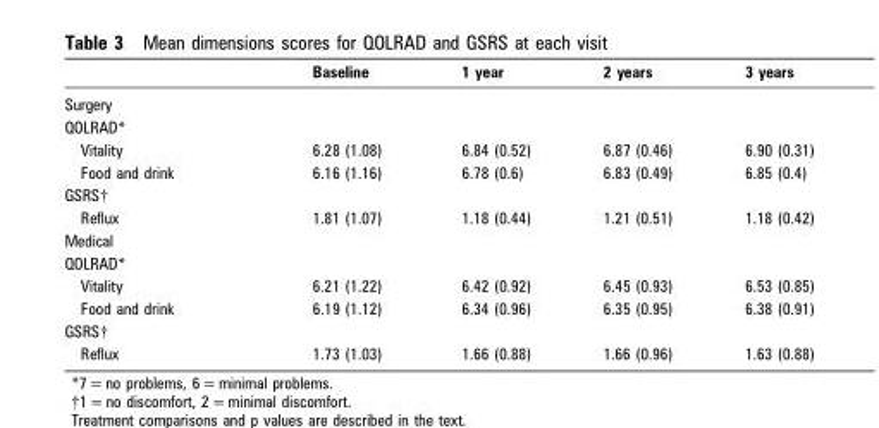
<table><thead><tr><td></td><td>Baseline</td><td>1 year</td><td>2 years</td><td>3 years</td></tr></thead><tbody><tr><td colspan="5">Surgery</td></tr><tr><td colspan="5">QOLRAD*</td></tr><tr><td>Vitality</td><td>6.28 (1.08)</td><td>6.84 (0.52)</td><td>6.87 (0.46)</td><td>6.90 (0.31)</td></tr><tr><td>Food and drink</td><td>6.16 (1.16)</td><td>6.78 (0.6)</td><td>6.83 (0.49)</td><td>6.85 (0.4)</td></tr><tr><td colspan="5">GSRS†</td></tr><tr><td>Reflux</td><td>1.81 (1.07)</td><td>1.18 (0.44)</td><td>1.21 (0.51)</td><td>1.18 (0.42)</td></tr><tr><td colspan="5">Medical</td></tr><tr><td colspan="5">QOLRAD*</td></tr><tr><td>Vitality</td><td>6.21 (1.22)</td><td>6.42 (0.92)</td><td>6.45 (0.93)</td><td>6.53 (0.85)</td></tr><tr><td>Food and drink</td><td>6.19 (1.12)</td><td>6.34 (0.96)</td><td>6.35 (0.95)</td><td>6.38 (0.91)</td></tr><tr><td colspan="5">GSRS†</td></tr><tr><td>Reflux</td><td>1.73 (1.03)</td><td>1.66 (0.88)</td><td>1.66 (0.96)</td><td>1.63 (0.88)</td></tr></tbody></table>